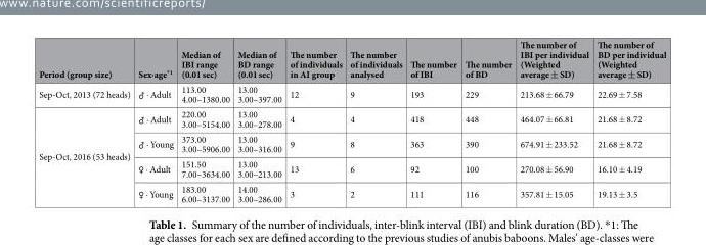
<table><thead><tr><td>Period (group size)</td><td>Sex∙age<sup>*1</sup></td><td>Median of IBI range (0.01 sec)</td><td>Median of BD range (0.01 sec)</td><td>The number of individuals in AI group</td><td>The number of individuals analysed</td><td>The number of IBI</td><td>The number of BD</td><td>The number of IBI per individual (Weighted average ± SD)</td><td>The number of BD per individual (Weighted average ± SD)</td></tr></thead><tbody><tr><td>Sep-Oct, 2013 (72 heads)</td><td>♂ ∙ Adult</td><td>113.00 4.00–1380.00</td><td>13.00 3.00–397.00</td><td>12</td><td>9</td><td>193</td><td>229</td><td>213.68 ± 66.79</td><td>22.69 ± 7.58</td></tr><tr><td rowspan="4">Sep-Oct, 2016 (53 heads)</td><td>♂ ∙ Adult</td><td>220.00 3.00–5154.00</td><td>13.00 3.00–278.00</td><td>4</td><td>4</td><td>418</td><td>448</td><td>464.07 ± 66.81</td><td>21.68 ± 8.72</td></tr><tr><td>♂ ∙ Young</td><td>373.00 3.00–5906.00</td><td>13.00 3.00–316.00</td><td>9</td><td>8</td><td>363</td><td>390</td><td>674.91 ± 233.52</td><td>21.68 ± 8.72</td></tr><tr><td>♀ ∙ Adult</td><td>151.50 7.00–3634.00</td><td>13.00 3.00–213.00</td><td>13</td><td>6</td><td>92</td><td>100</td><td>270.08 ± 56.90</td><td>16.10 ± 4.19</td></tr><tr><td>♀ ∙ Young</td><td>183.00 6.00–3137.00</td><td>14.00 3.00–286.00</td><td>3</td><td>2</td><td>111</td><td>116</td><td>357.81 ± 15.05</td><td>19.13 ± 3.5</td></tr></tbody></table>